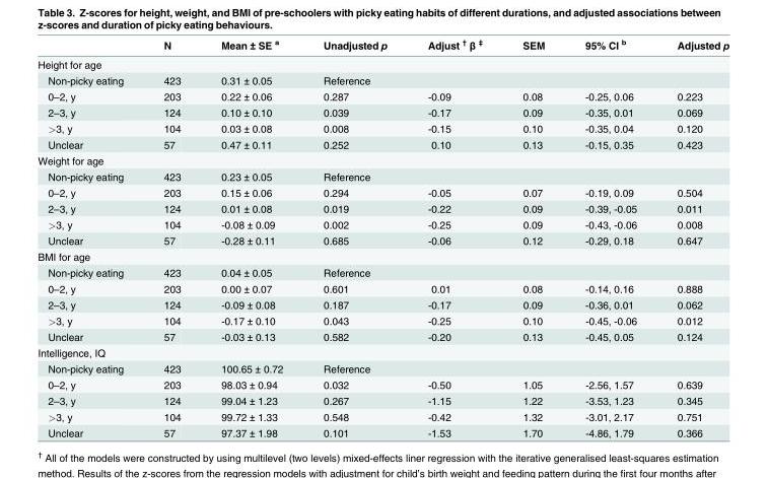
<table><thead><tr><td></td><td>N</td><td>Mean ± SE <sup>a</sup></td><td>Unadjusted p</td><td>Adjust <sup>†</sup> β <sup>‡</sup></td><td>SEM</td><td>95% CI <sup>b</sup></td><td>Adjusted p</td></tr></thead><tbody><tr><td colspan="8">Height for age</td></tr><tr><td>Non-picky eating</td><td>423</td><td>0.31 ± 0.05</td><td>Reference</td><td></td><td></td><td></td><td></td></tr><tr><td>0–2, y</td><td>203</td><td>0.22 ± 0.06</td><td>0.287</td><td>-0.09</td><td>0.08</td><td>-0.25, 0.06</td><td>0.223</td></tr><tr><td>2–3, y</td><td>124</td><td>0.10 ± 0.10</td><td>0.039</td><td>-0.17</td><td>0.09</td><td>-0.35, 0.01</td><td>0.069</td></tr><tr><td>&gt;3, y</td><td>104</td><td>0.03 ± 0.08</td><td>0.008</td><td>-0.15</td><td>0.10</td><td>-0.35, 0.04</td><td>0.120</td></tr><tr><td>Unclear</td><td>57</td><td>0.47 ± 0.11</td><td>0.252</td><td>0.10</td><td>0.13</td><td>-0.15, 0.35</td><td>0.423</td></tr><tr><td colspan="8">Weight for age</td></tr><tr><td>Non-picky eating</td><td>423</td><td>0.23 ± 0.05</td><td>Reference</td><td></td><td></td><td></td><td></td></tr><tr><td>0–2, y</td><td>203</td><td>0.15 ± 0.06</td><td>0.294</td><td>-0.05</td><td>0.07</td><td>-0.19, 0.09</td><td>0.504</td></tr><tr><td>2–3, y</td><td>124</td><td>0.01 ± 0.08</td><td>0.019</td><td>-0.22</td><td>0.09</td><td>-0.39, -0.05</td><td>0.011</td></tr><tr><td>&gt;3, y</td><td>104</td><td>-0.08 ± 0.09</td><td>0.002</td><td>-0.25</td><td>0.09</td><td>-0.43, -0.06</td><td>0.008</td></tr><tr><td>Unclear</td><td>57</td><td>-0.28 ± 0.11</td><td>0.685</td><td>-0.06</td><td>0.12</td><td>-0.29, 0.18</td><td>0.647</td></tr><tr><td colspan="8">BMI for age</td></tr><tr><td>Non-picky eating</td><td>423</td><td>0.04 ± 0.05</td><td>Reference</td><td></td><td></td><td></td><td></td></tr><tr><td>0–2, y</td><td>203</td><td>0.00 ± 0.07</td><td>0.601</td><td>0.01</td><td>0.08</td><td>-0.14, 0.16</td><td>0.888</td></tr><tr><td>2–3, y</td><td>124</td><td>-0.09 ± 0.08</td><td>0.187</td><td>-0.17</td><td>0.09</td><td>-0.36, 0.01</td><td>0.062</td></tr><tr><td>&gt;3, y</td><td>104</td><td>-0.17 ± 0.10</td><td>0.043</td><td>-0.25</td><td>0.10</td><td>-0.45, -0.06</td><td>0.012</td></tr><tr><td>Unclear</td><td>57</td><td>-0.03 ± 0.13</td><td>0.582</td><td>-0.20</td><td>0.13</td><td>-0.45, 0.05</td><td>0.124</td></tr><tr><td colspan="8">Intelligence, IQ</td></tr><tr><td>Non-picky eating</td><td>423</td><td>100.65 ± 0.72</td><td>Reference</td><td></td><td></td><td></td><td></td></tr><tr><td>0–2, y</td><td>203</td><td>98.03 ± 0.94</td><td>0.032</td><td>-0.50</td><td>1.05</td><td>-2.56, 1.57</td><td>0.639</td></tr><tr><td>2–3, y</td><td>124</td><td>99.04 ± 1.23</td><td>0.267</td><td>-1.15</td><td>1.22</td><td>-3.53, 1.23</td><td>0.345</td></tr><tr><td>&gt;3, y</td><td>104</td><td>99.72 ± 1.33</td><td>0.548</td><td>-0.42</td><td>1.32</td><td>-3.01, 2.17</td><td>0.751</td></tr><tr><td>Unclear</td><td>57</td><td>97.37 ± 1.98</td><td>0.101</td><td>-1.53</td><td>1.70</td><td>-4.86, 1.79</td><td>0.366</td></tr></tbody></table>